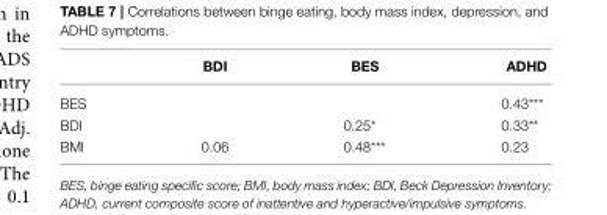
<table><thead><tr><td></td><td>BDI</td><td>BES</td><td>ADHD</td></tr></thead><tbody><tr><td>BES</td><td></td><td></td><td>0.43***</td></tr><tr><td>BDI</td><td></td><td>0.25*</td><td>0.33**</td></tr><tr><td>BMI</td><td>0.06</td><td>0.48***</td><td>0.23</td></tr></tbody></table>